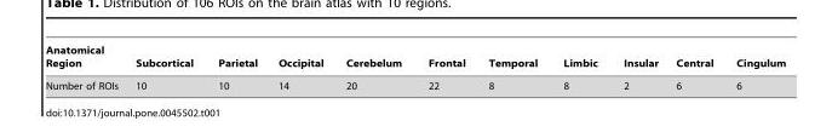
<table><thead><tr><td>Anatomical Region</td><td>Subcortical</td><td>Parietal</td><td>Occipital</td><td>Cerebelum</td><td>Frontal</td><td>Temporal</td><td>Limbic</td><td>Insular</td><td>Central</td><td>Cingulum</td></tr></thead><tbody><tr><td>Number of ROIs</td><td>10</td><td>10</td><td>14</td><td>20</td><td>22</td><td>8</td><td>8</td><td>2</td><td>6</td><td>6</td></tr></tbody></table>